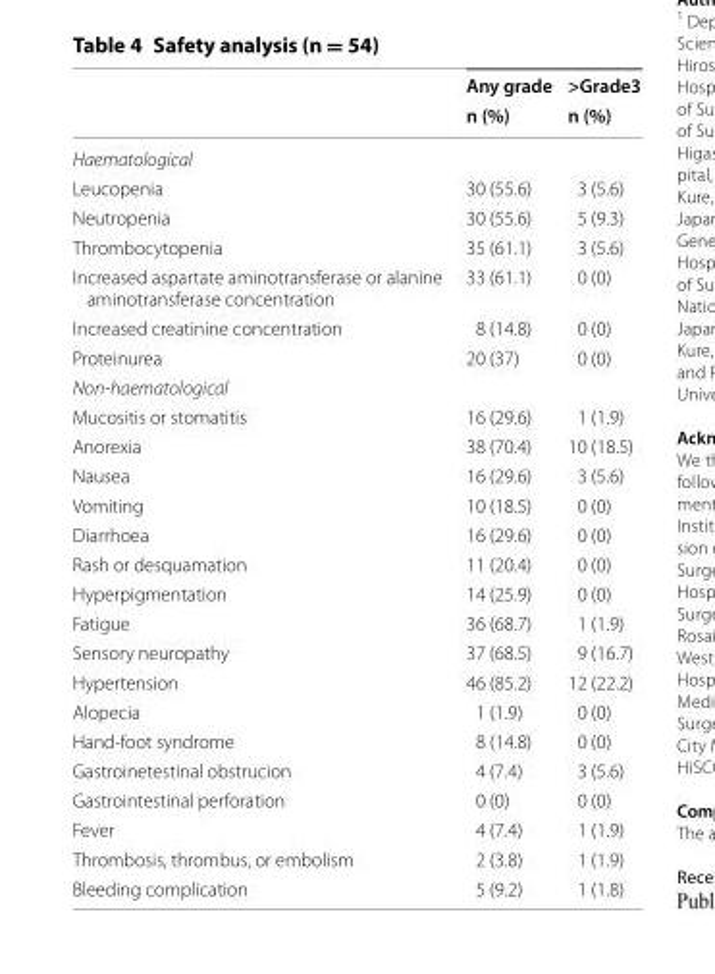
<table><thead><tr><td rowspan="2"></td><td rowspan="2">Any grade n (%)</td><td rowspan="2">&gt;Grade3 n (%)</td></tr><tr></tr></thead><tbody><tr><td colspan="3">Haematological</td></tr><tr><td>Leucopenia</td><td>30 (55.6)</td><td>3 (5.6)</td></tr><tr><td>Neutropenia</td><td>30 (55.6)</td><td>5 (9.3)</td></tr><tr><td>Thrombocytopenia</td><td>35 (61.1)</td><td>3 (5.6)</td></tr><tr><td>Increased aspartate aminotransferase or alanine aminotransferase concentration</td><td>33 (61.1)</td><td>0 (0)</td></tr><tr><td>Increased creatinine concentration</td><td>8 (14.8)</td><td>0 (0)</td></tr><tr><td>Proteinurea</td><td>20 (37)</td><td>0 (0)</td></tr><tr><td colspan="3">Non-haematological</td></tr><tr><td>Mucositis or stomatitis</td><td>16 (29.6)</td><td>1 (1.9)</td></tr><tr><td>Anorexia</td><td>38 (70.4)</td><td>10 (18.5)</td></tr><tr><td>Nausea</td><td>16 (29.6)</td><td>3 (5.6)</td></tr><tr><td>Vomiting</td><td>10 (18.5)</td><td>0 (0)</td></tr><tr><td>Diarrhoea</td><td>16 (29.6)</td><td>0 (0)</td></tr><tr><td>Rash or desquamation</td><td>11 (20.4)</td><td>0 (0)</td></tr><tr><td>Hyperpigmentation</td><td>14 (25.9)</td><td>0 (0)</td></tr><tr><td>Fatigue</td><td>36 (68.7)</td><td>1 (1.9)</td></tr><tr><td>Sensory neuropathy</td><td>37 (68.5)</td><td>9 (16.7)</td></tr><tr><td>Hypertension</td><td>46 (85.2)</td><td>12 (22.2)</td></tr><tr><td>Alopecia</td><td>1 (1.9)</td><td>0 (0)</td></tr><tr><td>Hand-foot syndrome</td><td>8 (14.8)</td><td>0 (0)</td></tr><tr><td>Gastroinetestinal obstrucion</td><td>4 (7.4)</td><td>3 (5.6)</td></tr><tr><td>Gastrointestinal perforation</td><td>0 (0)</td><td>0 (0)</td></tr><tr><td>Fever</td><td>4 (7.4)</td><td>1 (1.9)</td></tr><tr><td>Thrombosis, thrombus, or embolism</td><td>2 (3.8)</td><td>1 (1.9)</td></tr><tr><td>Bleeding complication</td><td>5 (9.2)</td><td>1 (1.8)</td></tr></tbody></table>